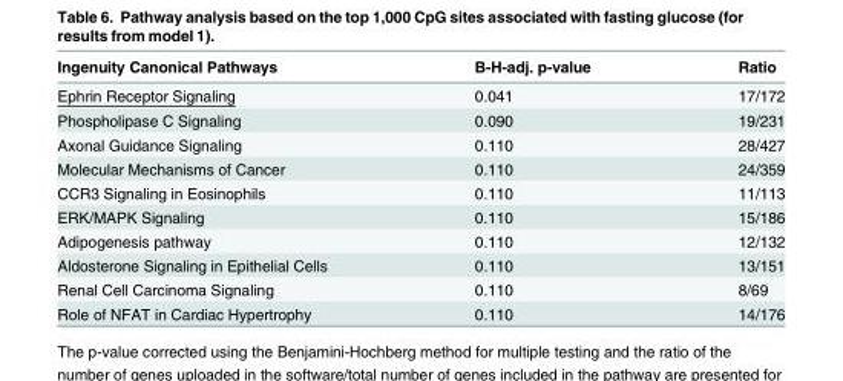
<table><thead><tr><td>Ingenuity Canonical Pathways</td><td>B-H-adj. p-value</td><td>Ratio</td></tr></thead><tbody><tr><td>Ephrin Receptor Signaling</td><td>0.041</td><td>17/172</td></tr><tr><td>Phospholipase C Signaling</td><td>0.090</td><td>19/231</td></tr><tr><td>Axonal Guidance Signaling</td><td>0.110</td><td>28/427</td></tr><tr><td>Molecular Mechanisms of Cancer</td><td>0.110</td><td>24/359</td></tr><tr><td>CCR3 Signaling in Eosinophils</td><td>0.110</td><td>11/113</td></tr><tr><td>ERK/MAPK Signaling</td><td>0.110</td><td>15/186</td></tr><tr><td>Adipogenesis pathway</td><td>0.110</td><td>12/132</td></tr><tr><td>Aldosterone Signaling in Epithelial Cells</td><td>0.110</td><td>13/151</td></tr><tr><td>Renal Cell Carcinoma Signaling</td><td>0.110</td><td>8/69</td></tr><tr><td>Role of NFAT in Cardiac Hypertrophy</td><td>0.110</td><td>14/176</td></tr></tbody></table>